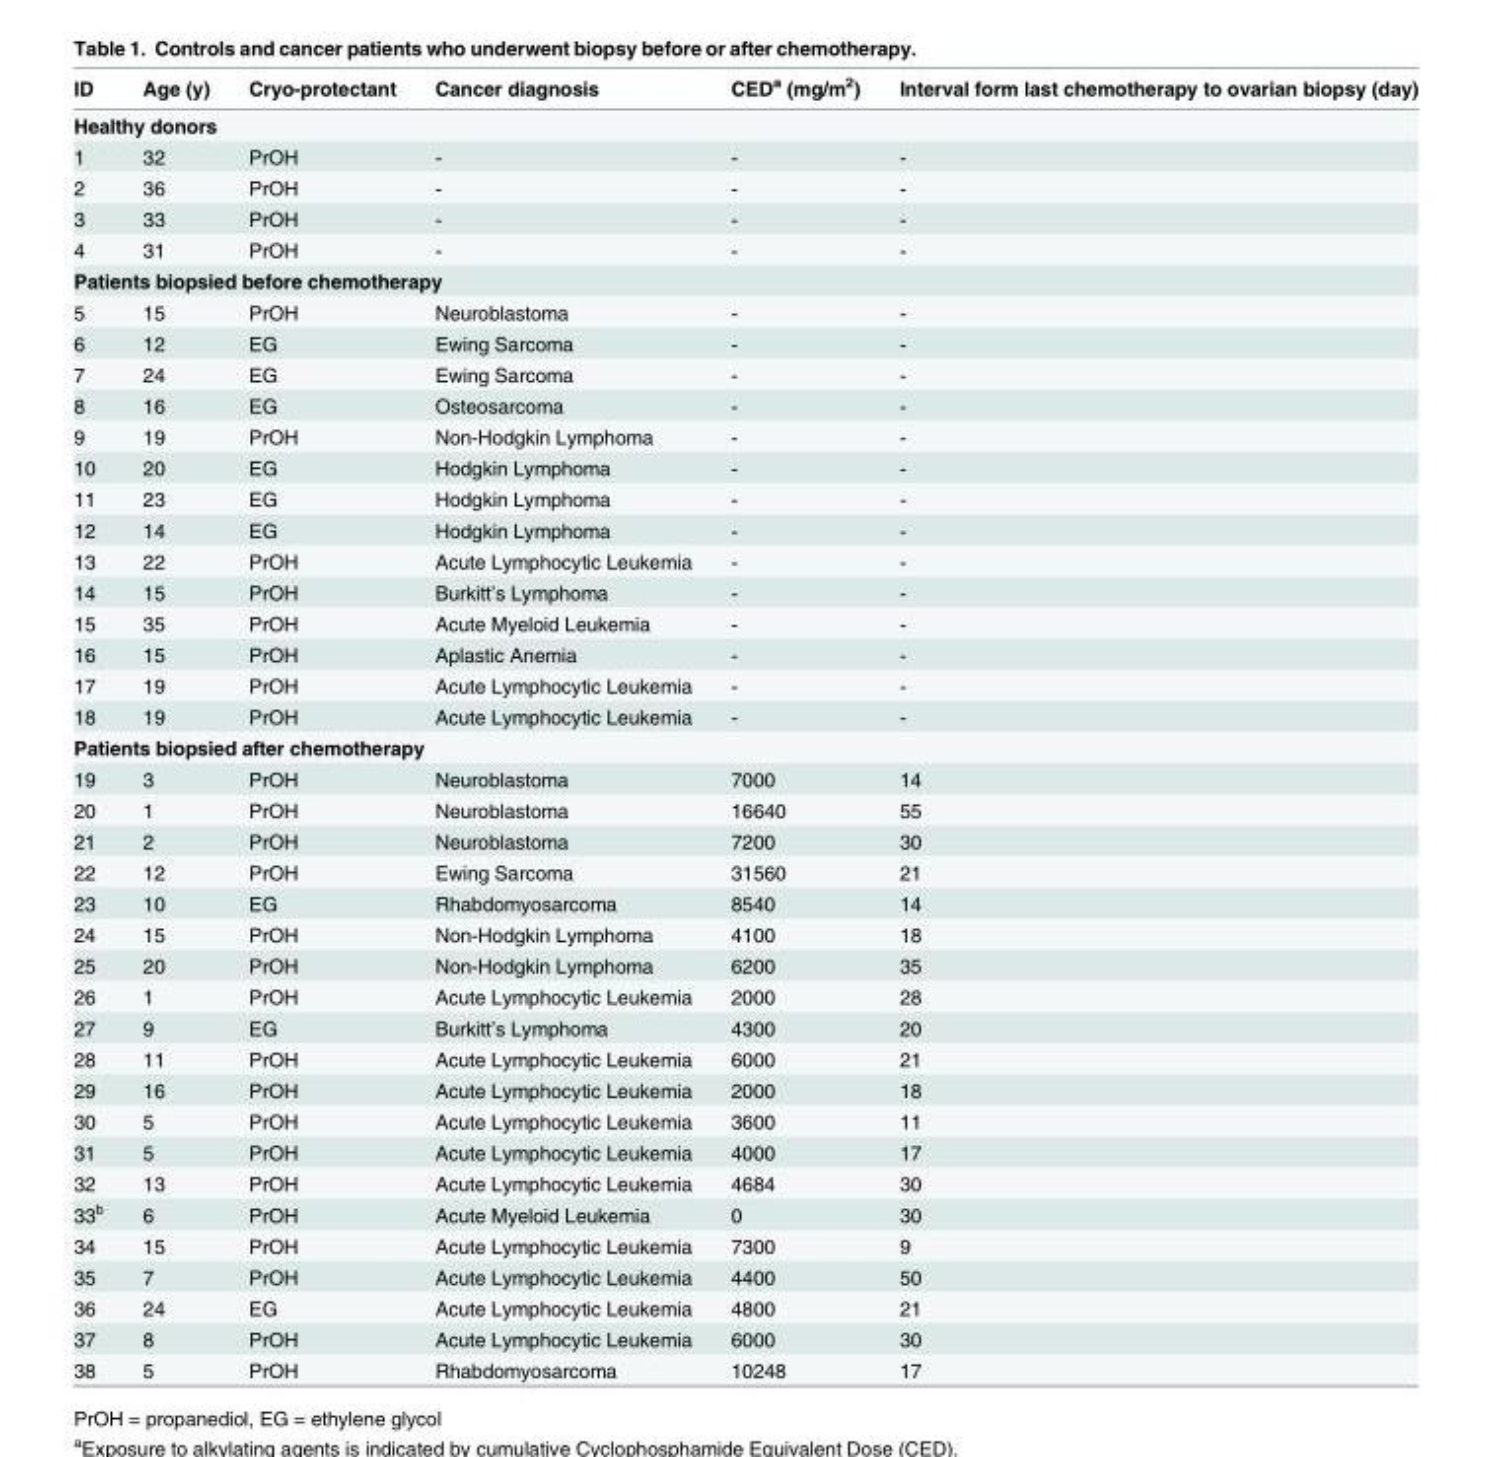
<table><thead><tr><td>ID</td><td>Age (y)</td><td>Cryo-protectant</td><td>Cancer diagnosis</td><td>CED<sup>a</sup> (mg/m<sup>2</sup>)</td><td>Interval form last chemotherapy to ovarian biopsy (day)</td></tr></thead><tbody><tr><td colspan="6">Healthy donors</td></tr><tr><td>1</td><td>32</td><td>PrOH</td><td>-</td><td>-</td><td>-</td></tr><tr><td>2</td><td>36</td><td>PrOH</td><td>-</td><td>-</td><td>-</td></tr><tr><td>3</td><td>33</td><td>PrOH</td><td>-</td><td>-</td><td>-</td></tr><tr><td>4</td><td>31</td><td>PrOH</td><td>-</td><td>-</td><td>-</td></tr><tr><td colspan="6">Patients biopsied before chemotherapy</td></tr><tr><td>5</td><td>15</td><td>PrOH</td><td>Neuroblastoma</td><td>-</td><td>-</td></tr><tr><td>6</td><td>12</td><td>EG</td><td>Ewing Sarcoma</td><td>-</td><td>-</td></tr><tr><td>7</td><td>24</td><td>EG</td><td>Ewing Sarcoma</td><td>-</td><td>-</td></tr><tr><td>8</td><td>16</td><td>EG</td><td>Osteosarcoma</td><td>-</td><td>-</td></tr><tr><td>9</td><td>19</td><td>PrOH</td><td>Non-Hodgkin Lymphoma</td><td>-</td><td>-</td></tr><tr><td>10</td><td>20</td><td>EG</td><td>Hodgkin Lymphoma</td><td>-</td><td>-</td></tr><tr><td>11</td><td>23</td><td>EG</td><td>Hodgkin Lymphoma</td><td>-</td><td>-</td></tr><tr><td>12</td><td>14</td><td>EG</td><td>Hodgkin Lymphoma</td><td>-</td><td>-</td></tr><tr><td>13</td><td>22</td><td>PrOH</td><td>Acute Lymphocytic Leukemia</td><td>-</td><td>-</td></tr><tr><td>14</td><td>15</td><td>PrOH</td><td>Burkitt’s Lymphoma</td><td>-</td><td>-</td></tr><tr><td>15</td><td>35</td><td>PrOH</td><td>Acute Myeloid Leukemia</td><td>-</td><td>-</td></tr><tr><td>16</td><td>15</td><td>PrOH</td><td>Aplastic Anemia</td><td>-</td><td>-</td></tr><tr><td>17</td><td>19</td><td>PrOH</td><td>Acute Lymphocytic Leukemia</td><td>-</td><td>-</td></tr><tr><td>18</td><td>19</td><td>PrOH</td><td>Acute Lymphocytic Leukemia</td><td>-</td><td>-</td></tr><tr><td colspan="6">Patients biopsied after chemotherapy</td></tr><tr><td>19</td><td>3</td><td>PrOH</td><td>Neuroblastoma</td><td>7000</td><td>14</td></tr><tr><td>20</td><td>1</td><td>PrOH</td><td>Neuroblastoma</td><td>16640</td><td>55</td></tr><tr><td>21</td><td>2</td><td>PrOH</td><td>Neuroblastoma</td><td>7200</td><td>30</td></tr><tr><td>22</td><td>12</td><td>PrOH</td><td>Ewing Sarcoma</td><td>31560</td><td>21</td></tr><tr><td>23</td><td>10</td><td>EG</td><td>Rhabdomyosarcoma</td><td>8540</td><td>14</td></tr><tr><td>24</td><td>15</td><td>PrOH</td><td>Non-Hodgkin Lymphoma</td><td>4100</td><td>18</td></tr><tr><td>25</td><td>20</td><td>PrOH</td><td>Non-Hodgkin Lymphoma</td><td>6200</td><td>35</td></tr><tr><td>26</td><td>1</td><td>PrOH</td><td>Acute Lymphocytic Leukemia</td><td>2000</td><td>28</td></tr><tr><td>27</td><td>9</td><td>EG</td><td>Burkitt’s Lymphoma</td><td>4300</td><td>20</td></tr><tr><td>28</td><td>11</td><td>PrOH</td><td>Acute Lymphocytic Leukemia</td><td>6000</td><td>21</td></tr><tr><td>29</td><td>16</td><td>PrOH</td><td>Acute Lymphocytic Leukemia</td><td>2000</td><td>18</td></tr><tr><td>30</td><td>5</td><td>PrOH</td><td>Acute Lymphocytic Leukemia</td><td>3600</td><td>11</td></tr><tr><td>31</td><td>5</td><td>PrOH</td><td>Acute Lymphocytic Leukemia</td><td>4000</td><td>17</td></tr><tr><td>32</td><td>13</td><td>PrOH</td><td>Acute Lymphocytic Leukemia</td><td>4684</td><td>30</td></tr><tr><td>33<sup>b</sup></td><td>6</td><td>PrOH</td><td>Acute Myeloid Leukemia</td><td>0</td><td>30</td></tr><tr><td>34</td><td>15</td><td>PrOH</td><td>Acute Lymphocytic Leukemia</td><td>7300</td><td>9</td></tr><tr><td>35</td><td>7</td><td>PrOH</td><td>Acute Lymphocytic Leukemia</td><td>4400</td><td>50</td></tr><tr><td>36</td><td>24</td><td>EG</td><td>Acute Lymphocytic Leukemia</td><td>4800</td><td>21</td></tr><tr><td>37</td><td>8</td><td>PrOH</td><td>Acute Lymphocytic Leukemia</td><td>6000</td><td>30</td></tr><tr><td>38</td><td>5</td><td>PrOH</td><td>Rhabdomyosarcoma</td><td>10248</td><td>17</td></tr></tbody></table>